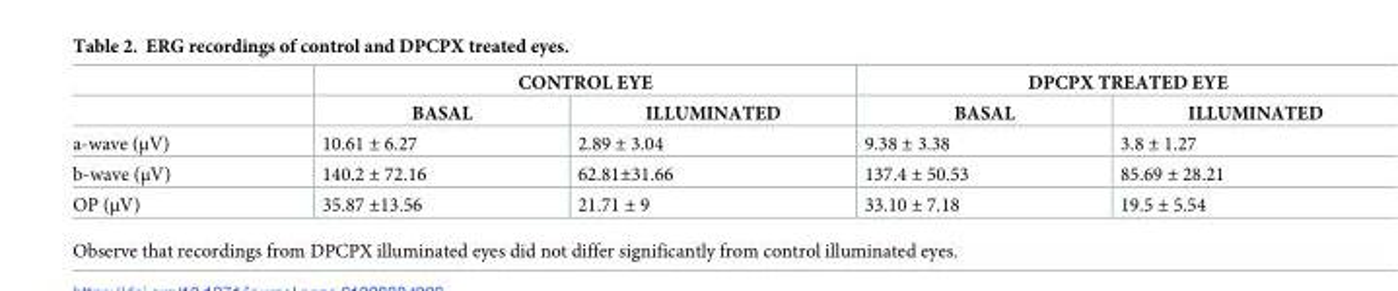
<table><thead><tr><td rowspan="2"></td><td colspan="2">CONTROL EYE</td><td colspan="2">DPCPX TREATED EYE</td></tr><tr><td>BASAL</td><td>ILLUMINATED</td><td>BASAL</td><td>ILLUMINATED</td></tr></thead><tbody><tr><td>a-wave (μV)</td><td>10.61 ± 6.27</td><td>2.89 ± 3.04</td><td>9.38 ± 3.38</td><td>3.8 ± 1.27</td></tr><tr><td>b-wave (μV)</td><td>140.2 ± 72.16</td><td>62.81±31.66</td><td>137.4 ± 50.53</td><td>85.69 ± 28.21</td></tr><tr><td>OP (μV)</td><td>35.87 ±13.56</td><td>21.71 ± 9</td><td>33.10 ± 7.18</td><td>19.5 ± 5.54</td></tr></tbody></table>